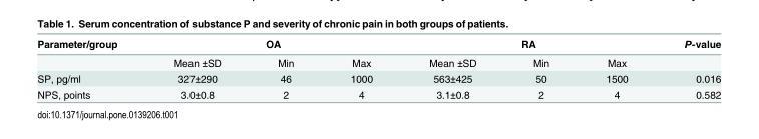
<table><thead><tr><td rowspan="2">Parameter/group</td><td colspan="3">OA</td><td colspan="3">RA</td><td rowspan="2">P-value</td></tr><tr><td>Mean ±SD</td><td>Min</td><td>Max</td><td>Mean ±SD</td><td>Min</td><td>Max</td></tr></thead><tbody><tr><td>SP, pg/ml</td><td>327±290</td><td>46</td><td>1000</td><td>563±425</td><td>50</td><td>1500</td><td>0.016</td></tr><tr><td>NPS, points</td><td>3.0±0.8</td><td>2</td><td>4</td><td>3.1±0.8</td><td>2</td><td>4</td><td>0.582</td></tr></tbody></table>